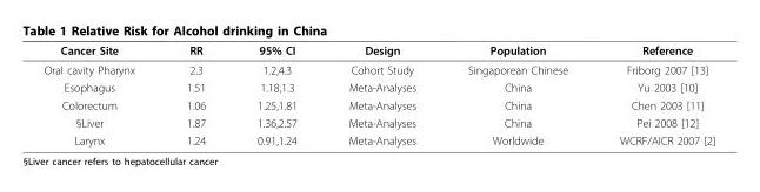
<table><thead><tr><td>Cancer Site</td><td>RR</td><td>95% CI</td><td>Design</td><td>Population</td><td>Reference</td></tr></thead><tbody><tr><td>Oral cavity Pharynx</td><td>2.3</td><td>1.2,4.3</td><td>Cohort Study</td><td>Singaporean Chinese</td><td>Friborg 2007 [13]</td></tr><tr><td>Esophagus</td><td>1.51</td><td>1.18,1.3</td><td>Meta-Analyses</td><td>China</td><td>Yu 2003 [10]</td></tr><tr><td>Colorectum</td><td>1.06</td><td>1.25,1.81</td><td>Meta-Analyses</td><td>China</td><td>Chen 2003 [11]</td></tr><tr><td>§Liver</td><td>1.87</td><td>1.36,2.57</td><td>Meta-Analyses</td><td>China</td><td>Pei 2008 [12]</td></tr><tr><td>Larynx</td><td>1.24</td><td>0.91,1.24</td><td>Meta-Analyses</td><td>Worldwide</td><td>WCRF/AICR 2007 [2]</td></tr></tbody></table>